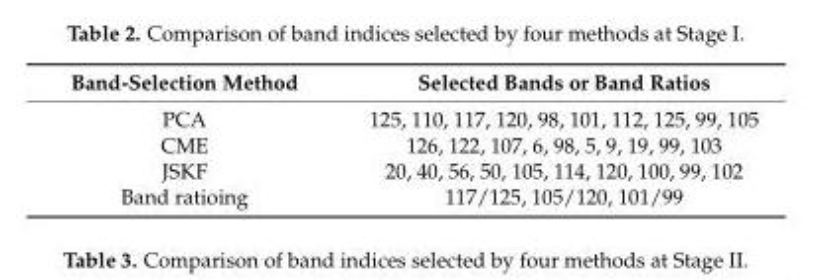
<table><thead><tr><td>Band-Selection Method</td><td>Selected Bands or Band Ratios</td></tr></thead><tbody><tr><td>PCA</td><td>125, 110, 117, 120, 98, 101, 112, 125, 99, 105</td></tr><tr><td>CME</td><td>126, 122, 107, 6, 98, 5, 9, 19, 99, 103</td></tr><tr><td>JSKF</td><td>20, 40, 56, 50, 105, 114, 120, 100, 99, 102</td></tr><tr><td>Band ratioing</td><td>117/125, 105/120, 101/99</td></tr></tbody></table>